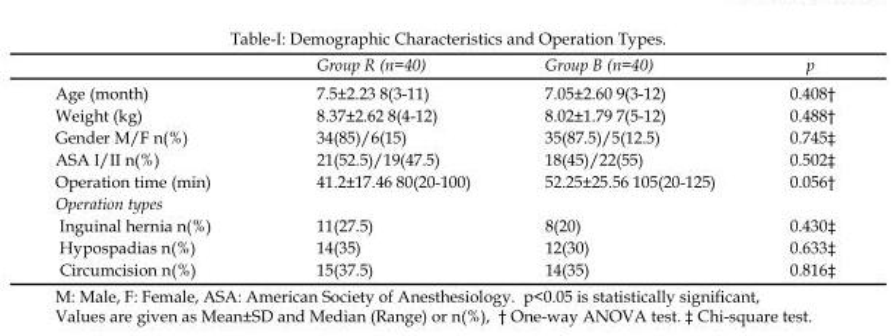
<table><thead><tr><td></td><td>Group R (n=40)</td><td>Group B (n=40)</td><td>p</td></tr></thead><tbody><tr><td>Age (month)</td><td>7.5±2.23 8(3-11)</td><td>7.05±2.60 9(3-12)</td><td>0.408†</td></tr><tr><td>Weight (kg)</td><td>8.37±2.62 8(4-12)</td><td>8.02±1.79 7(5-12)</td><td>0.488†</td></tr><tr><td>Gender M/F n(%)</td><td>34(85)/6(15)</td><td>35(87.5)/5(12.5)</td><td>0.745‡</td></tr><tr><td>ASA I/II n(%)</td><td>21(52.5)/19(47.5)</td><td>18(45)/22(55)</td><td>0.502‡</td></tr><tr><td>Operation time (min)</td><td>41.2±17.46 80(20-100)</td><td>52.25±25.56 105(20-125)</td><td>0.056†</td></tr><tr><td colspan="4">Operation types</td></tr><tr><td>Inguinal hernia n(%)</td><td>11(27.5)</td><td>8(20)</td><td>0.430‡</td></tr><tr><td>Hypospadias n(%)</td><td>14(35)</td><td>12(30)</td><td>0.633‡</td></tr><tr><td>Circumcision n(%)</td><td>15(37.5)</td><td>14(35)</td><td>0.816‡</td></tr></tbody></table>